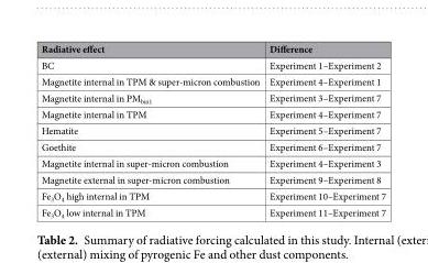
<table><thead><tr><td>Radiative effect</td><td>Difference</td></tr></thead><tbody><tr><td>BC</td><td>Experiment 1–Experiment 2</td></tr><tr><td>Magnetite internal in TPM &amp; super-micron combustion</td><td>Experiment 4–Experiment 1</td></tr><tr><td>Magnetite internal in PM<sub>bin1</sub></td><td>Experiment 3–Experiment 7</td></tr><tr><td>Magnetite internal in TPM</td><td>Experiment 4–Experiment 7</td></tr><tr><td>Hematite</td><td>Experiment 5–Experiment 7</td></tr><tr><td>Goethite</td><td>Experiment 6–Experiment 7</td></tr><tr><td>Magnetite internal in super-micron combustion</td><td>Experiment 4–Experiment 3</td></tr><tr><td>Magnetite external in super-micron combustion</td><td>Experiment 9–Experiment 8</td></tr><tr><td>Fe<sub>3</sub>O<sub>4</sub> high internal in TPM</td><td>Experiment 10–Experiment 7</td></tr><tr><td>Fe<sub>3</sub>O<sub>4</sub> low internal in TPM</td><td>Experiment 11–Experiment 7</td></tr></tbody></table>